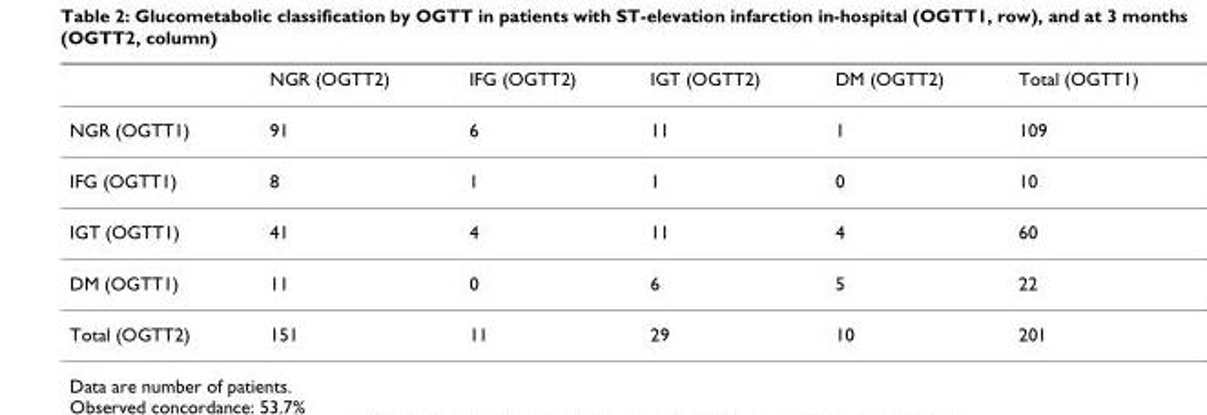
<table><thead><tr><td></td><td>NGR (OGTT2)</td><td>IFG (OGTT2)</td><td>IGT (OGTT2)</td><td>DM (OGTT2)</td><td>Total (OGTT1)</td></tr></thead><tbody><tr><td>NGR (OGTT1)</td><td>91</td><td>6</td><td>11</td><td>1</td><td>109</td></tr><tr><td>IFG (OGTT1)</td><td>8</td><td>1</td><td>1</td><td>0</td><td>10</td></tr><tr><td>IGT (OGTT1)</td><td>41</td><td>4</td><td>11</td><td>4</td><td>60</td></tr><tr><td>DM (OGTT1)</td><td>11</td><td>0</td><td>6</td><td>5</td><td>22</td></tr><tr><td>Total (OGTT2)</td><td>151</td><td>11</td><td>29</td><td>10</td><td>201</td></tr></tbody></table>